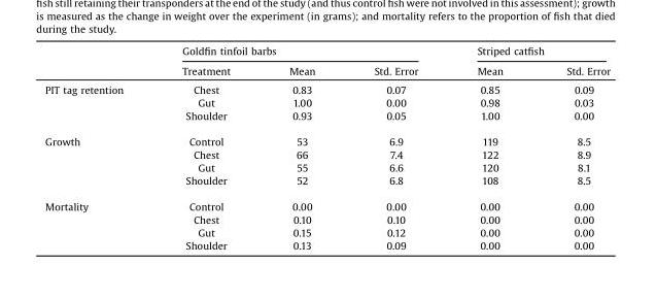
<table><thead><tr><td rowspan="2"></td><td colspan="3">Goldfin tinfoil barbs</td><td colspan="2">Striped catfish</td></tr><tr><td>Treatment</td><td>Mean</td><td>Std. Error</td><td>Mean</td><td>Std. Error</td></tr></thead><tbody><tr><td rowspan="3">PIT tag retention</td><td>Chest</td><td>0.83</td><td>0.07</td><td>0.85</td><td>0.09</td></tr><tr><td>Gut</td><td>1.00</td><td>0.00</td><td>0.98</td><td>0.03</td></tr><tr><td>Shoulder</td><td>0.93</td><td>0.05</td><td>1.00</td><td>0.00</td></tr><tr><td rowspan="4">Growth</td><td>Control</td><td>53</td><td>6.9</td><td>119</td><td>8.5</td></tr><tr><td>Chest</td><td>66</td><td>7.4</td><td>122</td><td>8.9</td></tr><tr><td>Gut</td><td>55</td><td>6.6</td><td>120</td><td>8.1</td></tr><tr><td>Shoulder</td><td>52</td><td>6.8</td><td>108</td><td>8.5</td></tr><tr><td rowspan="4">Mortality</td><td>Control</td><td>0.00</td><td>0.00</td><td>0.00</td><td>0.00</td></tr><tr><td>Chest</td><td>0.10</td><td>0.10</td><td>0.00</td><td>0.00</td></tr><tr><td>Gut</td><td>0.15</td><td>0.12</td><td>0.00</td><td>0.00</td></tr><tr><td>Shoulder</td><td>0.13</td><td>0.09</td><td>0.00</td><td>0.00</td></tr></tbody></table>